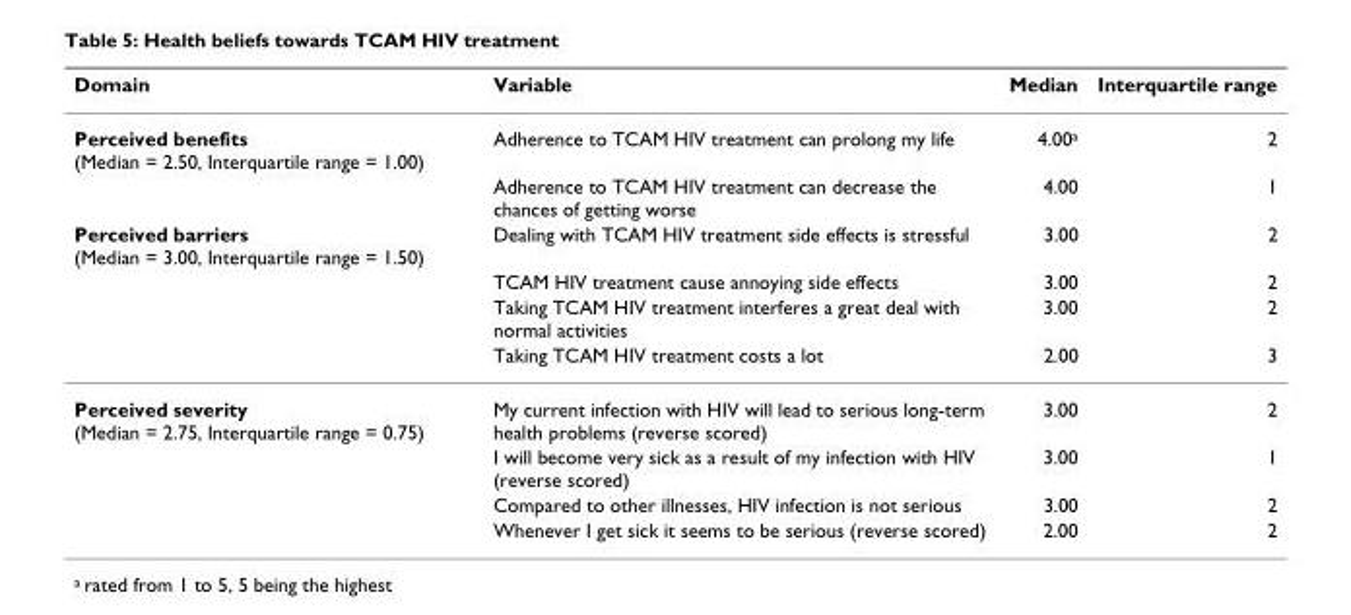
<table><thead><tr><td>Domain</td><td>Variable</td><td>Median</td><td>Interquartile range</td></tr></thead><tbody><tr><td rowspan="2">Perceived benefits (Median = 2.50, Interquartile range = 1.00)</td><td>Adherence to TCAM HIV treatment can prolong my life</td><td>4.00<sup>a</sup></td><td>2</td></tr><tr><td>Adherence to TCAM HIV treatment can decrease the chances of getting worse</td><td>4.00</td><td>1</td></tr><tr><td rowspan="4">Perceived barriers (Median = 3.00, Interquartile range = 1.50)</td><td>Dealing with TCAM HIV treatment side effects is stressful</td><td>3.00</td><td>2</td></tr><tr><td>TCAM HIV treatment cause annoying side effects</td><td>3.00</td><td>2</td></tr><tr><td>Taking TCAM HIV treatment interferes a great deal with normal activities</td><td>3.00</td><td>2</td></tr><tr><td>Taking TCAM HIV treatment costs a lot</td><td>2.00</td><td>3</td></tr><tr><td rowspan="4">Perceived severity (Median = 2.75, Interquartile range = 0.75)</td><td>My current infection with HIV will lead to serious long-term health problems (reverse scored)</td><td>3.00</td><td>2</td></tr><tr><td>I will become very sick as a result of my infection with HIV (reverse scored)</td><td>3.00</td><td>1</td></tr><tr><td>Compared to other illnesses, HIV infection is not serious</td><td>3.00</td><td>2</td></tr><tr><td>Whenever I get sick it seems to be serious (reverse scored)</td><td>2.00</td><td>2</td></tr></tbody></table>